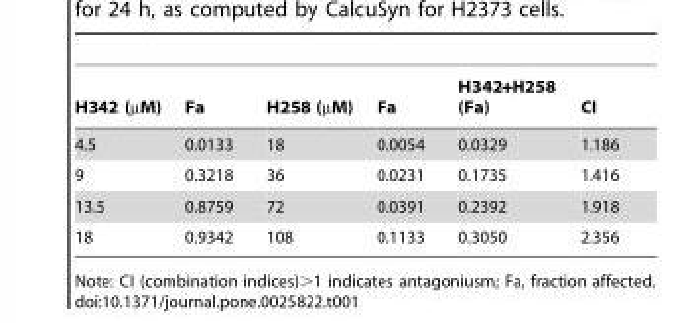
<table><thead><tr><td>H342 (µM)</td><td>Fa</td><td>H258 (µM)</td><td>Fa</td><td>H342+H258 (Fa)</td><td>CI</td></tr></thead><tbody><tr><td>4.5</td><td>0.0133</td><td>18</td><td>0.0054</td><td>0.0329</td><td>1.186</td></tr><tr><td>9</td><td>0.3218</td><td>36</td><td>0.0231</td><td>0.1735</td><td>1.416</td></tr><tr><td>13.5</td><td>0.8759</td><td>72</td><td>0.0391</td><td>0.2392</td><td>1.918</td></tr><tr><td>18</td><td>0.9342</td><td>108</td><td>0.1133</td><td>0.3050</td><td>2.356</td></tr></tbody></table>